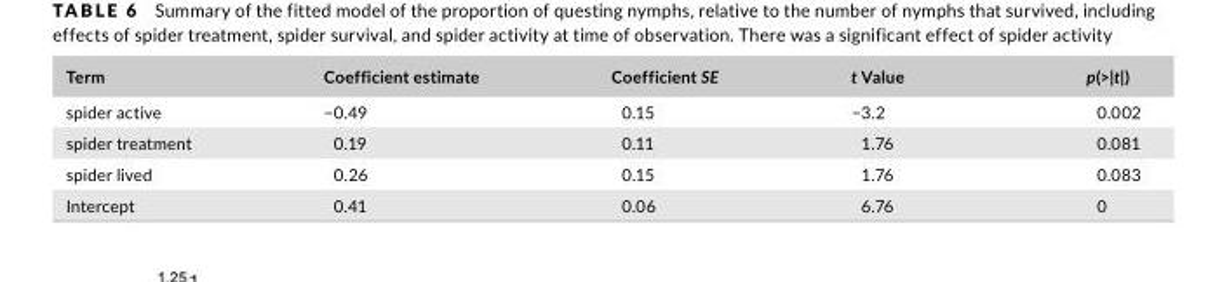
<table><thead><tr><td>Term</td><td>Coefficient estimate</td><td>Coefficient SE</td><td>t Value</td><td>p(&gt;|t|)</td></tr></thead><tbody><tr><td>spider active</td><td>−0.49</td><td>0.15</td><td>−3.2</td><td>0.002</td></tr><tr><td>spider treatment</td><td>0.19</td><td>0.11</td><td>1.76</td><td>0.081</td></tr><tr><td>spider lived</td><td>0.26</td><td>0.15</td><td>1.76</td><td>0.083</td></tr><tr><td>Intercept</td><td>0.41</td><td>0.06</td><td>6.76</td><td>0</td></tr></tbody></table>